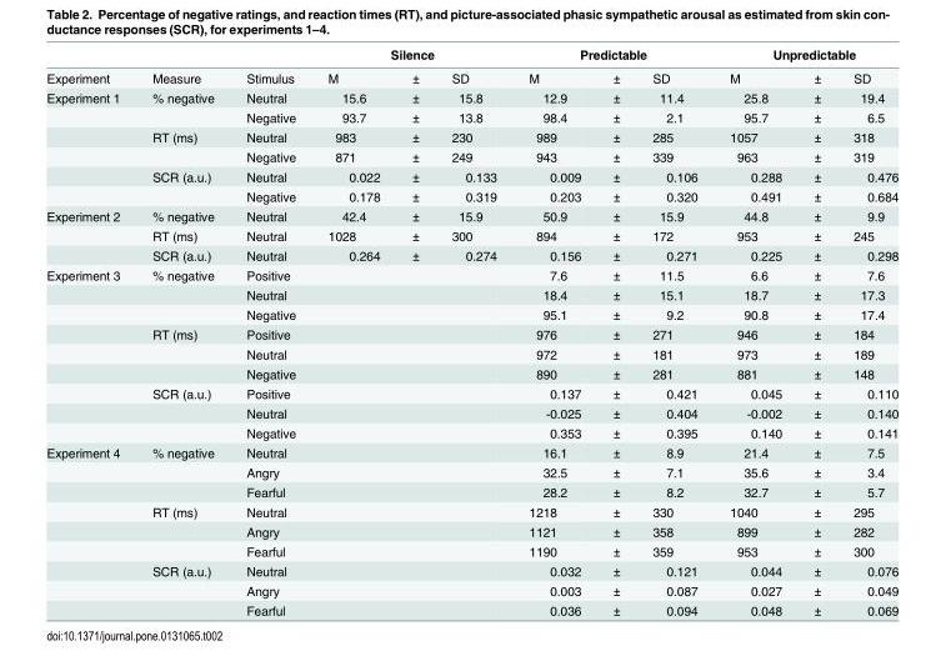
<table><thead><tr><td rowspan="2">Experiment</td><td rowspan="2">Measure</td><td rowspan="2">Stimulus</td><td colspan="3">Silence</td><td colspan="3">Predictable</td><td colspan="3">Unpredictable</td></tr><tr><td>M</td><td>±</td><td>SD</td><td>M</td><td>±</td><td>SD</td><td>M</td><td>±</td><td>SD</td></tr></thead><tbody><tr><td rowspan="6">Experiment 1</td><td>% negative</td><td>Neutral</td><td>15.6</td><td>±</td><td>15.8</td><td>12.9</td><td>±</td><td>11.4</td><td>25.8</td><td>±</td><td>19.4</td></tr><tr><td></td><td>Negative</td><td>93.7</td><td>±</td><td>13.8</td><td>98.4</td><td>±</td><td>2.1</td><td>95.7</td><td>±</td><td>6.5</td></tr><tr><td>RT (ms)</td><td>Neutral</td><td>983</td><td>±</td><td>230</td><td>989</td><td>±</td><td>285</td><td>1057</td><td>±</td><td>318</td></tr><tr><td></td><td>Negative</td><td>871</td><td>±</td><td>249</td><td>943</td><td>±</td><td>339</td><td>963</td><td>±</td><td>319</td></tr><tr><td>SCR (a.u.)</td><td>Neutral</td><td>0.022</td><td>±</td><td>0.133</td><td>0.009</td><td>±</td><td>0.106</td><td>0.288</td><td>±</td><td>0.476</td></tr><tr><td></td><td>Negative</td><td>0.178</td><td>±</td><td>0.319</td><td>0.203</td><td>±</td><td>0.320</td><td>0.491</td><td>±</td><td>0.684</td></tr><tr><td rowspan="3">Experiment 2</td><td>% negative</td><td>Neutral</td><td>42.4</td><td>±</td><td>15.9</td><td>50.9</td><td>±</td><td>15.9</td><td>44.8</td><td>±</td><td>9.9</td></tr><tr><td>RT (ms)</td><td>Neutral</td><td>1028</td><td>±</td><td>300</td><td>894</td><td>±</td><td>172</td><td>953</td><td>±</td><td>245</td></tr><tr><td>SCR (a.u.)</td><td>Neutral</td><td>0.264</td><td>±</td><td>0.274</td><td>0.156</td><td>±</td><td>0.271</td><td>0.225</td><td>±</td><td>0.298</td></tr><tr><td rowspan="9">Experiment 3</td><td>% negative</td><td>Positive</td><td></td><td></td><td></td><td>7.6</td><td>±</td><td>11.5</td><td>6.6</td><td>±</td><td>7.6</td></tr><tr><td></td><td>Neutral</td><td></td><td></td><td></td><td>18.4</td><td>±</td><td>15.1</td><td>18.7</td><td>±</td><td>17.3</td></tr><tr><td></td><td>Negative</td><td></td><td></td><td></td><td>95.1</td><td>±</td><td>9.2</td><td>90.8</td><td>±</td><td>17.4</td></tr><tr><td>RT (ms)</td><td>Positive</td><td></td><td></td><td></td><td>976</td><td>±</td><td>271</td><td>946</td><td>±</td><td>184</td></tr><tr><td></td><td>Neutral</td><td></td><td></td><td></td><td>972</td><td>±</td><td>181</td><td>973</td><td>±</td><td>189</td></tr><tr><td></td><td>Negative</td><td></td><td></td><td></td><td>890</td><td>±</td><td>281</td><td>881</td><td>±</td><td>148</td></tr><tr><td>SCR (a.u.)</td><td>Positive</td><td></td><td></td><td></td><td>0.137</td><td>±</td><td>0.421</td><td>0.045</td><td>±</td><td>0.110</td></tr><tr><td></td><td>Neutral</td><td></td><td></td><td></td><td>-0.025</td><td>±</td><td>0.404</td><td>-0.002</td><td>±</td><td>0.140</td></tr><tr><td></td><td>Negative</td><td></td><td></td><td></td><td>0.353</td><td>±</td><td>0.395</td><td>0.140</td><td>±</td><td>0.141</td></tr><tr><td rowspan="9">Experiment 4</td><td>% negative</td><td>Neutral</td><td></td><td></td><td></td><td>16.1</td><td>±</td><td>8.9</td><td>21.4</td><td>±</td><td>7.5</td></tr><tr><td></td><td>Angry</td><td></td><td></td><td></td><td>32.5</td><td>±</td><td>7.1</td><td>35.6</td><td>±</td><td>3.4</td></tr><tr><td></td><td>Fearful</td><td></td><td></td><td></td><td>28.2</td><td>±</td><td>8.2</td><td>32.7</td><td>±</td><td>5.7</td></tr><tr><td>RT (ms)</td><td>Neutral</td><td></td><td></td><td></td><td>1218</td><td>±</td><td>330</td><td>1040</td><td>±</td><td>295</td></tr><tr><td></td><td>Angry</td><td></td><td></td><td></td><td>1121</td><td>±</td><td>358</td><td>899</td><td>±</td><td>282</td></tr><tr><td></td><td>Fearful</td><td></td><td></td><td></td><td>1190</td><td>±</td><td>359</td><td>953</td><td>±</td><td>300</td></tr><tr><td>SCR (a.u.)</td><td>Neutral</td><td></td><td></td><td></td><td>0.032</td><td>±</td><td>0.121</td><td>0.044</td><td>±</td><td>0.076</td></tr><tr><td></td><td>Angry</td><td></td><td></td><td></td><td>0.003</td><td>±</td><td>0.087</td><td>0.027</td><td>±</td><td>0.049</td></tr><tr><td></td><td>Fearful</td><td></td><td></td><td></td><td>0.036</td><td>±</td><td>0.094</td><td>0.048</td><td>±</td><td>0.069</td></tr></tbody></table>